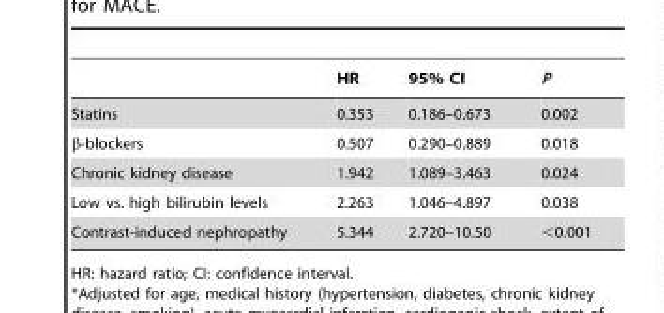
<table><thead><tr><td></td><td>HR</td><td>95% CI</td><td>P</td></tr></thead><tbody><tr><td>Statins</td><td>0.353</td><td>0.186–0.673</td><td>0.002</td></tr><tr><td>β-blockers</td><td>0.507</td><td>0.290–0.889</td><td>0.018</td></tr><tr><td>Chronic kidney disease</td><td>1.942</td><td>1.089–3.463</td><td>0.024</td></tr><tr><td>Low vs. high bilirubin levels</td><td>2.263</td><td>1.046–4.897</td><td>0.038</td></tr><tr><td>Contrast-induced nephropathy</td><td>5.344</td><td>2.720–10.50</td><td>&lt;0.001</td></tr></tbody></table>